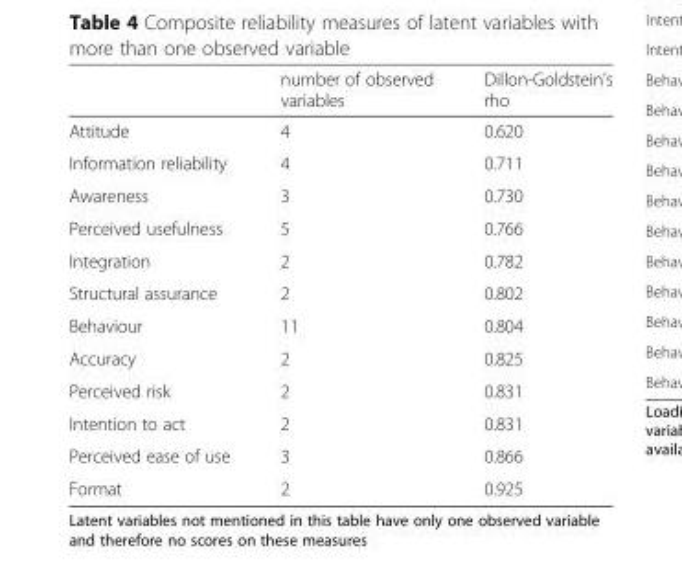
<table><thead><tr><td></td><td>number of observed variables</td><td>Dillon-Goldstein’s rho</td></tr></thead><tbody><tr><td>Attitude</td><td>4</td><td>0.620</td></tr><tr><td>Information reliability</td><td>4</td><td>0.711</td></tr><tr><td>Awareness</td><td>3</td><td>0.730</td></tr><tr><td>Perceived usefulness</td><td>5</td><td>0.766</td></tr><tr><td>Integration</td><td>2</td><td>0.782</td></tr><tr><td>Structural assurance</td><td>2</td><td>0.802</td></tr><tr><td>Behaviour</td><td>11</td><td>0.804</td></tr><tr><td>Accuracy</td><td>2</td><td>0.825</td></tr><tr><td>Perceived risk</td><td>2</td><td>0.831</td></tr><tr><td>Intention to act</td><td>2</td><td>0.831</td></tr><tr><td>Perceived ease of use</td><td>3</td><td>0.866</td></tr><tr><td>Format</td><td>2</td><td>0.925</td></tr></tbody></table>